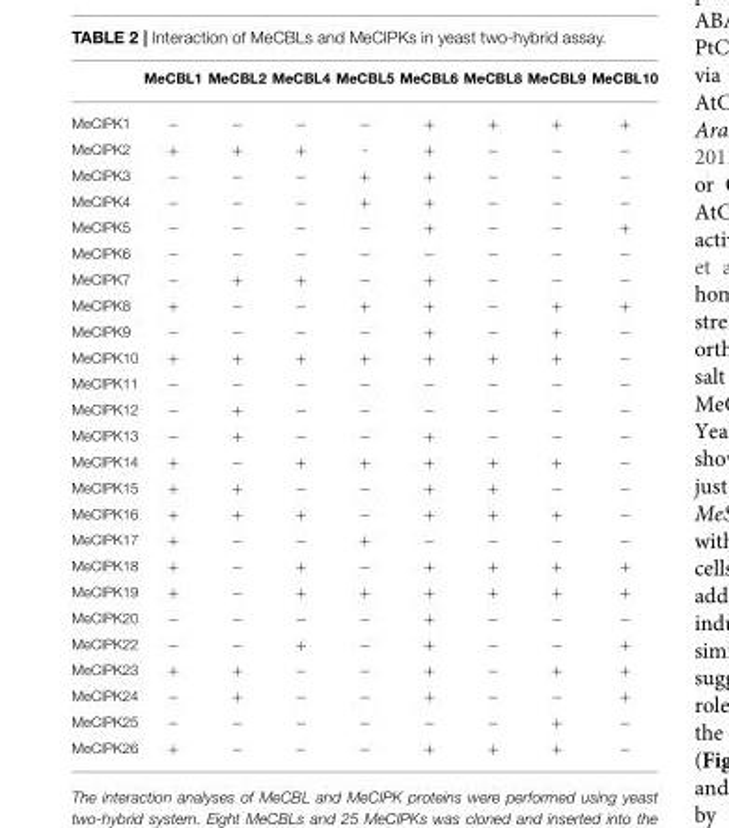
<table><thead><tr><td></td><td>MeCBL1</td><td>MeCBL2</td><td>MeCBL4</td><td>MeCBL5</td><td>MeCBL6</td><td>MeCBL8</td><td>MeCBL9</td><td>MeCBL10</td></tr></thead><tbody><tr><td>MeCIPK1</td><td>−</td><td>−</td><td>−</td><td>−</td><td>+</td><td>+</td><td>+</td><td>+</td></tr><tr><td>MeCIPK2</td><td>+</td><td>+</td><td>+</td><td>-</td><td>+</td><td>−</td><td>−</td><td>−</td></tr><tr><td>MeCIPK3</td><td>−</td><td>−</td><td>−</td><td>+</td><td>+</td><td>−</td><td>−</td><td>−</td></tr><tr><td>MeCIPK4</td><td>−</td><td>−</td><td>−</td><td>+</td><td>+</td><td>−</td><td>−</td><td>−</td></tr><tr><td>MeCIPK5</td><td>−</td><td>−</td><td>−</td><td>−</td><td>+</td><td>−</td><td>−</td><td>+</td></tr><tr><td>MeCIPK6</td><td>−</td><td>−</td><td>−</td><td>−</td><td>−</td><td>−</td><td>−</td><td>−</td></tr><tr><td>MeCIPK7</td><td>−</td><td>+</td><td>+</td><td>−</td><td>+</td><td>−</td><td>−</td><td>−</td></tr><tr><td>MeCIPK8</td><td>+</td><td>−</td><td>−</td><td>+</td><td>+</td><td>−</td><td>+</td><td>+</td></tr><tr><td>MeCIPK9</td><td>−</td><td>−</td><td>−</td><td>−</td><td>+</td><td>−</td><td>+</td><td>−</td></tr><tr><td>MeCIPK10</td><td>+</td><td>+</td><td>+</td><td>+</td><td>+</td><td>+</td><td>+</td><td>−</td></tr><tr><td>MeCIPK11</td><td>−</td><td>−</td><td>−</td><td>−</td><td>−</td><td>−</td><td>−</td><td>−</td></tr><tr><td>MeCIPK12</td><td>−</td><td>+</td><td>−</td><td>−</td><td>−</td><td>−</td><td>−</td><td>−</td></tr><tr><td>MeCIPK13</td><td>−</td><td>+</td><td>−</td><td>−</td><td>+</td><td>−</td><td>−</td><td>−</td></tr><tr><td>MeCIPK14</td><td>+</td><td>−</td><td>+</td><td>+</td><td>+</td><td>+</td><td>+</td><td>−</td></tr><tr><td>MeCIPK15</td><td>+</td><td>+</td><td>−</td><td>−</td><td>+</td><td>+</td><td>−</td><td>−</td></tr><tr><td>MeCIPK16</td><td>+</td><td>+</td><td>+</td><td>−</td><td>+</td><td>+</td><td>+</td><td>−</td></tr><tr><td>MeCIPK17</td><td>+</td><td>−</td><td>−</td><td>+</td><td>−</td><td>−</td><td>−</td><td>−</td></tr><tr><td>MeCIPK18</td><td>+</td><td>−</td><td>+</td><td>−</td><td>+</td><td>+</td><td>+</td><td>+</td></tr><tr><td>MeCIPK19</td><td>+</td><td>−</td><td>+</td><td>+</td><td>+</td><td>+</td><td>+</td><td>+</td></tr><tr><td>MeCIPK20</td><td>−</td><td>−</td><td>−</td><td>−</td><td>+</td><td>−</td><td>−</td><td>−</td></tr><tr><td>MeCIPK22</td><td>−</td><td>−</td><td>+</td><td>−</td><td>+</td><td>−</td><td>−</td><td>+</td></tr><tr><td>MeCIPK23</td><td>+</td><td>+</td><td>−</td><td>−</td><td>+</td><td>−</td><td>+</td><td>+</td></tr><tr><td>MeCIPK24</td><td>−</td><td>+</td><td>−</td><td>−</td><td>+</td><td>−</td><td>−</td><td>+</td></tr><tr><td>MeCIPK25</td><td>−</td><td>−</td><td>−</td><td>−</td><td>−</td><td>−</td><td>+</td><td>−</td></tr><tr><td>MeCIPK26</td><td>+</td><td>−</td><td>−</td><td>−</td><td>+</td><td>+</td><td>+</td><td>−</td></tr></tbody></table>